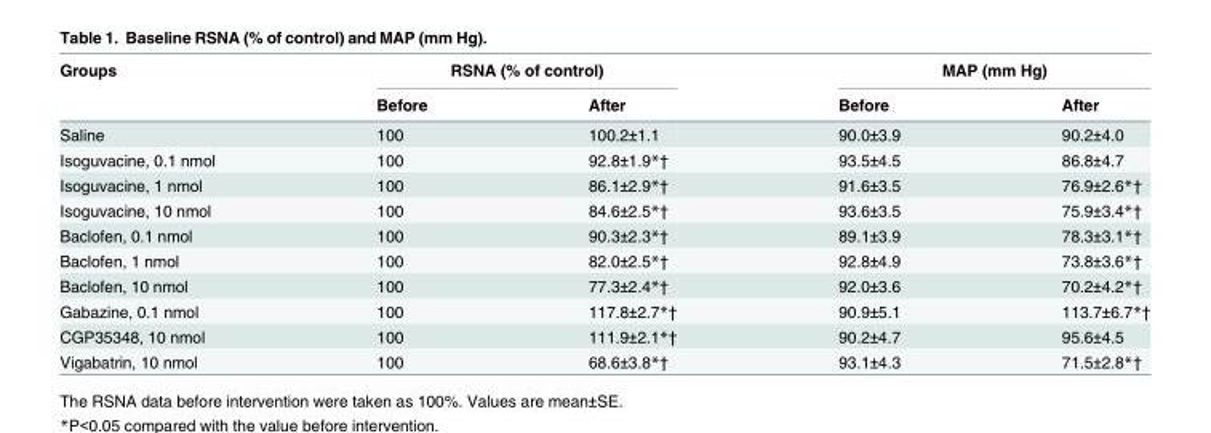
<table><thead><tr><td rowspan="2">Groups</td><td colspan="2">RSNA (% of control)</td><td colspan="2">MAP (mm Hg)</td></tr><tr><td>Before</td><td>After</td><td>Before</td><td>After</td></tr></thead><tbody><tr><td>Saline</td><td>100</td><td>100.2±1.1</td><td>90.0±3.9</td><td>90.2±4.0</td></tr><tr><td>Isoguvacine, 0.1 nmol</td><td>100</td><td>92.8±1.9*†</td><td>93.5±4.5</td><td>86.8±4.7</td></tr><tr><td>Isoguvacine, 1 nmol</td><td>100</td><td>86.1±2.9*†</td><td>91.6±3.5</td><td>76.9±2.6*†</td></tr><tr><td>Isoguvacine, 10 nmol</td><td>100</td><td>84.6±2.5*†</td><td>93.6±3.5</td><td>75.9±3.4*†</td></tr><tr><td>Baclofen, 0.1 nmol</td><td>100</td><td>90.3±2.3*†</td><td>89.1±3.9</td><td>78.3±3.1*†</td></tr><tr><td>Baclofen, 1 nmol</td><td>100</td><td>82.0±2.5*†</td><td>92.8±4.9</td><td>73.8±3.6*†</td></tr><tr><td>Baclofen, 10 nmol</td><td>100</td><td>77.3±2.4*†</td><td>92.0±3.6</td><td>70.2±4.2*†</td></tr><tr><td>Gabazine, 0.1 nmol</td><td>100</td><td>117.8±2.7*†</td><td>90.9±5.1</td><td>113.7±6.7*†</td></tr><tr><td>CGP35348, 10 nmol</td><td>100</td><td>111.9±2.1*†</td><td>90.2±4.7</td><td>95.6±4.5</td></tr><tr><td>Vigabatrin, 10 nmol</td><td>100</td><td>68.6±3.8*†</td><td>93.1±4.3</td><td>71.5±2.8*†</td></tr></tbody></table>